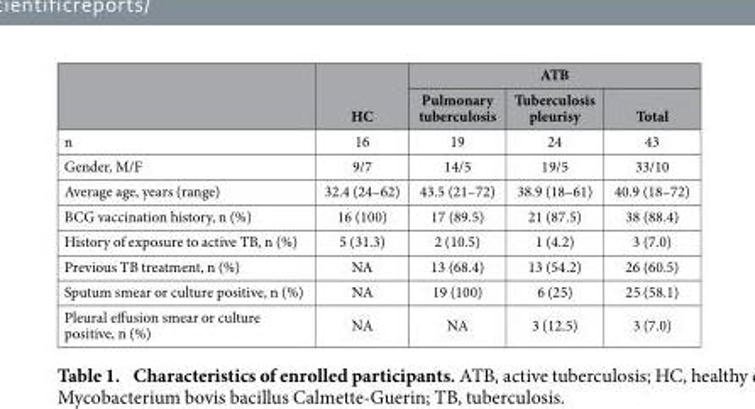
<table><thead><tr><td rowspan="2"></td><td rowspan="2">HC</td><td colspan="3">ATB</td></tr><tr><td>Pulmonary tuberculosis</td><td>Tuberculosis pleurisy</td><td>Total</td></tr></thead><tbody><tr><td>n</td><td>16</td><td>19</td><td>24</td><td>43</td></tr><tr><td>Gender, M/F</td><td>9/7</td><td>14/5</td><td>19/5</td><td>33/10</td></tr><tr><td>Average age, years (range)</td><td>32.4 (24–62)</td><td>43.5 (21–72)</td><td>38.9 (18–61)</td><td>40.9 (18–72)</td></tr><tr><td>BCG vaccination history, n (%)</td><td>16 (100)</td><td>17 (89.5)</td><td>21 (87.5)</td><td>38 (88.4)</td></tr><tr><td>History of exposure to active TB, n (%)</td><td>5 (31.3)</td><td>2 (10.5)</td><td>1 (4.2)</td><td>3 (7.0)</td></tr><tr><td>Previous TB treatment, n (%)</td><td>NA</td><td>13 (68.4)</td><td>13 (54.2)</td><td>26 (60.5)</td></tr><tr><td>Sputum smear or culture positive, n (%)</td><td>NA</td><td>19 (100)</td><td>6 (25)</td><td>25 (58.1)</td></tr><tr><td>Pleural effusion smear or culture positive, n (%)</td><td>NA</td><td>NA</td><td>3 (12.5)</td><td>3 (7.0)</td></tr></tbody></table>